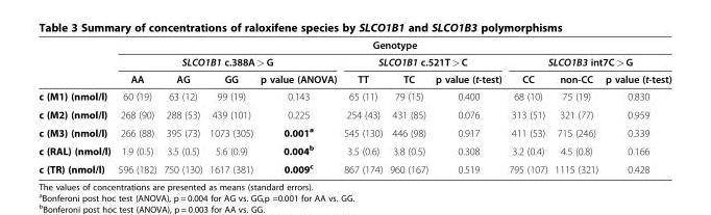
<table><thead><tr><td rowspan="3"></td><td colspan="10">Genotype</td></tr><tr><td colspan="4">SLCO1B1 c.388A &gt; G</td><td colspan="3">SLCO1B1 c.521T &gt; C</td><td colspan="3">SLCO1B3 int7C &gt; G</td></tr><tr><td>AA</td><td>AG</td><td>GG</td><td>p value (ANOVA)</td><td>TT</td><td>TC</td><td>p value (t-test)</td><td>CC</td><td>non-CC</td><td>p value (t-test)</td></tr></thead><tbody><tr><td>c (M1) (nmol/l)</td><td>60 (19)</td><td>63 (12)</td><td>99 (19)</td><td>0.143</td><td>65 (11)</td><td>79 (15)</td><td>0.400</td><td>68 (10)</td><td>75 (19)</td><td>0.830</td></tr><tr><td>c (M2) (nmol/l)</td><td>268 (90)</td><td>288 (53)</td><td>439 (101)</td><td>0.225</td><td>254 (43)</td><td>431 (85)</td><td>0.076</td><td>313 (51)</td><td>321 (77)</td><td>0.959</td></tr><tr><td>c (M3) (nmol/l)</td><td>266 (88)</td><td>395 (73)</td><td>1073 (305)</td><td>0.001<sup>a</sup></td><td>545 (130)</td><td>446 (98)</td><td>0.917</td><td>411 (53)</td><td>715 (246)</td><td>0.339</td></tr><tr><td>c (RAL) (nmol/l)</td><td>1.9 (0.5)</td><td>3.5 (0.5)</td><td>5.6 (0.9)</td><td>0.004<sup>b</sup></td><td>3.5 (0.6)</td><td>3.8 (0.5)</td><td>0.308</td><td>3.2 (0.4)</td><td>4.5 (0.8)</td><td>0.166</td></tr><tr><td>c (TR) (nmol/l)</td><td>596 (182)</td><td>750 (130)</td><td>1617 (381)</td><td>0.009<sup>c</sup></td><td>867 (174)</td><td>960 (167)</td><td>0.519</td><td>795 (107)</td><td>1115 (321)</td><td>0.428</td></tr></tbody></table>